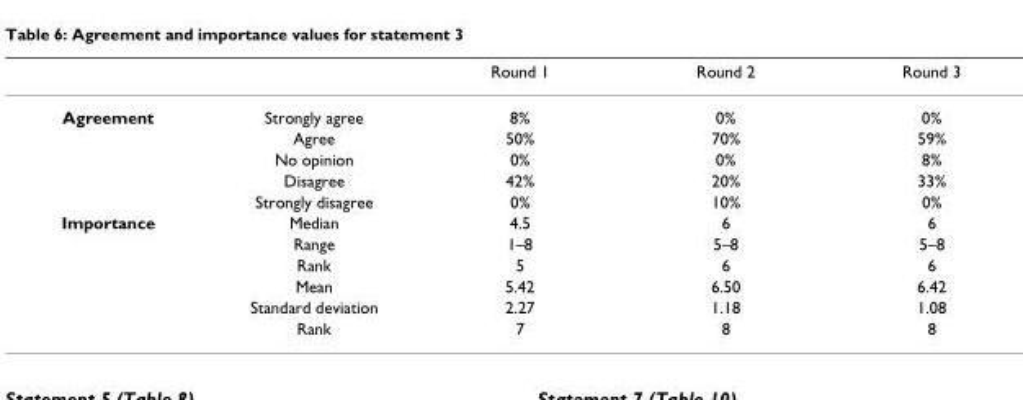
<table><thead><tr><td></td><td></td><td>Round 1</td><td>Round 2</td><td>Round 3</td></tr></thead><tbody><tr><td rowspan="5">Agreement</td><td>Strongly agree</td><td>8%</td><td>0%</td><td>0%</td></tr><tr><td>Agree</td><td>50%</td><td>70%</td><td>59%</td></tr><tr><td>No opinion</td><td>0%</td><td>0%</td><td>8%</td></tr><tr><td>Disagree</td><td>42%</td><td>20%</td><td>33%</td></tr><tr><td>Strongly disagree</td><td>0%</td><td>10%</td><td>0%</td></tr><tr><td rowspan="6">Importance</td><td>Median</td><td>4.5</td><td>6</td><td>6</td></tr><tr><td>Range</td><td>1–8</td><td>5–8</td><td>5–8</td></tr><tr><td>Rank</td><td>5</td><td>6</td><td>6</td></tr><tr><td>Mean</td><td>5.42</td><td>6.50</td><td>6.42</td></tr><tr><td>Standard deviation</td><td>2.27</td><td>1.18</td><td>1.08</td></tr><tr><td>Rank</td><td>7</td><td>8</td><td>8</td></tr></tbody></table>